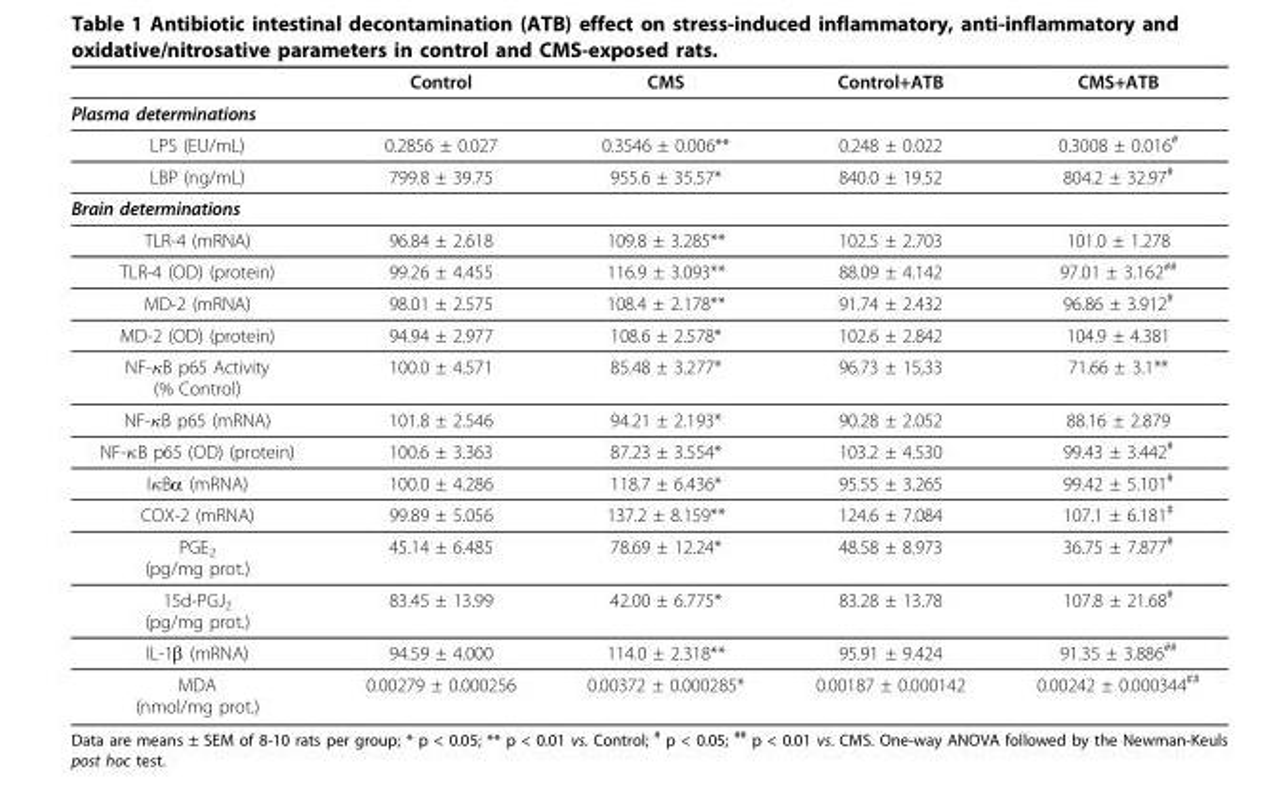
<table><thead><tr><td></td><td>Control</td><td>CMS</td><td>Control+ATB</td><td>CMS+ATB</td></tr></thead><tbody><tr><td colspan="5">Plasma determinations</td></tr><tr><td>LPS (EU/mL)</td><td>0.2856 ± 0.027</td><td>0.3546 ± 0.006**</td><td>0.248 ± 0.022</td><td>0.3008 ± 0.016<sup>#</sup></td></tr><tr><td>LBP (ng/mL)</td><td>799.8 ± 39.75</td><td>955.6 ± 35.57*</td><td>840.0 ± 19.52</td><td>804.2 ± 32.97<sup>#</sup></td></tr><tr><td colspan="5">Brain determinations</td></tr><tr><td>TLR-4 (mRNA)</td><td>96.84 ± 2.618</td><td>109.8 ± 3.285**</td><td>102.5 ± 2.703</td><td>101.0 ± 1.278</td></tr><tr><td>TLR-4 (OD) (protein)</td><td>99.26 ± 4.455</td><td>116.9 ± 3.093**</td><td>88.09 ± 4.142</td><td>97.01 ± 3.162<sup>##</sup></td></tr><tr><td>MD-2 (mRNA)</td><td>98.01 ± 2.575</td><td>108.4 ± 2.178**</td><td>91.74 ± 2.432</td><td>96.86 ± 3.912<sup>#</sup></td></tr><tr><td>MD-2 (OD) (protein)</td><td>94.94 ± 2.977</td><td>108.6 ± 2.578*</td><td>102.6 ± 2.842</td><td>104.9 ± 4.381</td></tr><tr><td>NF-κB p65 Activity (% Control)</td><td>100.0 ± 4.571</td><td>85.48 ± 3.277*</td><td>96.73 ± 15,33</td><td>71.66 ± 3.1**</td></tr><tr><td>NF-κB p65 (mRNA)</td><td>101.8 ± 2.546</td><td>94.21 ± 2.193*</td><td>90.28 ± 2.052</td><td>88.16 ± 2.879</td></tr><tr><td>NF-κB p65 (OD) (protein)</td><td>100.6 ± 3.363</td><td>87.23 ± 3.554*</td><td>103.2 ± 4.530</td><td>99.43 ± 3.442<sup>#</sup></td></tr><tr><td>IκBα (mRNA)</td><td>100.0 ± 4.286</td><td>118.7 ± 6.436*</td><td>95.55 ± 3.265</td><td>99.42 ± 5.101<sup>#</sup></td></tr><tr><td>COX-2 (mRNA)</td><td>99.89 ± 5.056</td><td>137.2 ± 8.159**</td><td>124.6 ± 7.084</td><td>107.1 ± 6.181<sup>#</sup></td></tr><tr><td>PGE<sub>2</sub> (pg/mg prot.)</td><td>45.14 ± 6.485</td><td>78.69 ± 12.24*</td><td>48.58 ± 8.973</td><td>36.75 ± 7.877<sup>#</sup></td></tr><tr><td>15d-PGJ<sub>2</sub> (pg/mg prot.)</td><td>83.45 ± 13.99</td><td>42.00 ± 6.775*</td><td>83.28 ± 13.78</td><td>107.8 ± 21.68<sup>#</sup></td></tr><tr><td>IL-1β (mRNA)</td><td>94.59 ± 4.000</td><td>114.0 ± 2.318**</td><td>95.91 ± 9.424</td><td>91.35 ± 3.886<sup>##</sup></td></tr><tr><td>MDA (nmol/mg prot.)</td><td>0.00279 ± 0.000256</td><td>0.00372 ± 0.000285*</td><td>0.00187 ± 0.000142</td><td>0.00242 ± 0.000344<sup>##</sup></td></tr></tbody></table>